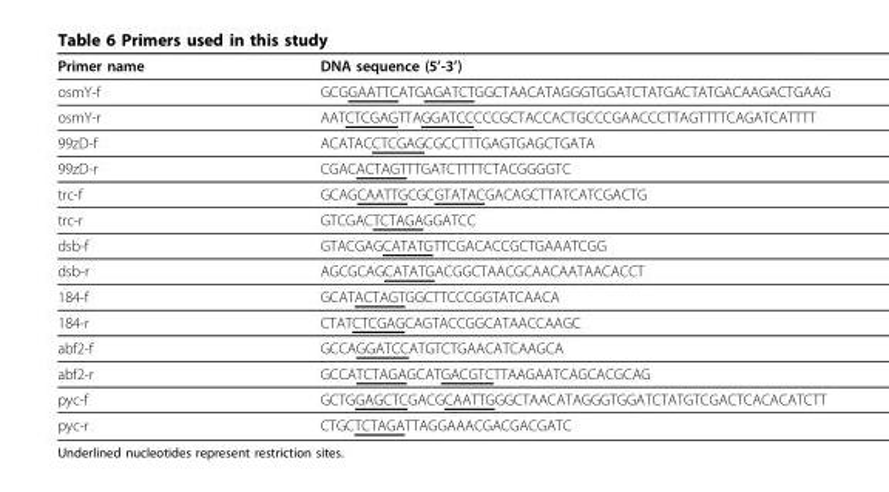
<table><thead><tr><td>Primer name</td><td>DNA sequence (5’-3’)</td></tr></thead><tbody><tr><td>osmY-f</td><td>GCGGAATTCATGAGATCTGGCTAACATAGGGTGGATCTATGACTATGACAAGACTGAAG</td></tr><tr><td>osmY-r</td><td>AATCTCGAGTTAGGATCCCCCGCTACCACTGCCCGAACCCTTAGTTTTCAGATCATTTT</td></tr><tr><td>99zD-f</td><td>ACATACCTCGAGCGCCTTTGAGTGAGCTGATA</td></tr><tr><td>99zD-r</td><td>CGACACTAGTTTGATCTTTTCTACGGGGTC</td></tr><tr><td>trc-f</td><td>GCAGCAATTGCGCGTATACGACAGCTTATCATCGACTG</td></tr><tr><td>trc-r</td><td>GTCGACTCTAGAGGATCC</td></tr><tr><td>dsb-f</td><td>GTACGAGCATATGTTCGACACCGCTGAAATCGG</td></tr><tr><td>dsb-r</td><td>AGCGCAGCATATGACGGCTAACGCAACAATAACACCT</td></tr><tr><td>184-f</td><td>GCATACTAGTGGCTTCCCGGTATCAACA</td></tr><tr><td>184-r</td><td>CTATCTCGAGCAGTACCGGCATAACCAAGC</td></tr><tr><td>abf2-f</td><td>GCCAGGATCCATGTCTGAACATCAAGCA</td></tr><tr><td>abf2-r</td><td>GCCATCTAGAGCATGACGTCTTAAGAATCAGCACGCAG</td></tr><tr><td>pyc-f</td><td>GCTGGAGCTCGACGCAATTGGGCTAACATAGGGTGGATCTATGTCGACTCACACATCTT</td></tr><tr><td>pyc-r</td><td>CTGCTCTAGATTAGGAAACGACGACGATC</td></tr></tbody></table>